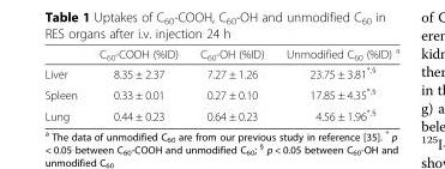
<table><thead><tr><td></td><td>C<sub>60</sub>-COOH (%ID)</td><td>C<sub>60</sub>-OH (%ID)</td><td>Unmodified C<sub>60</sub> (%ID) <sup>a</sup></td></tr></thead><tbody><tr><td>Liver</td><td>8.35 ± 2.37</td><td>7.27 ± 1.26</td><td>23.75 ± 3.81<sup>*,§</sup></td></tr><tr><td>Spleen</td><td>0.33 ± 0.01</td><td>0.27 ± 0.10</td><td>17.85 ± 4.35<sup>*,§</sup></td></tr><tr><td>Lung</td><td>0.44 ± 0.23</td><td>0.64 ± 0.23</td><td>4.56 ± 1.96<sup>*,§</sup></td></tr></tbody></table>